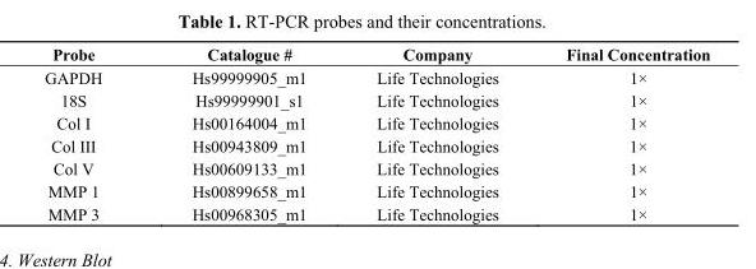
<table><thead><tr><td>Probe</td><td>Catalogue #</td><td>Company</td><td>Final Concentration</td></tr></thead><tbody><tr><td>GAPDH</td><td>Hs99999905_m1</td><td>Life Technologies</td><td>1×</td></tr><tr><td>18S</td><td>Hs99999901_s1</td><td>Life Technologies</td><td>1×</td></tr><tr><td>Col I</td><td>Hs00164004_m1</td><td>Life Technologies</td><td>1×</td></tr><tr><td>Col III</td><td>Hs00943809_m1</td><td>Life Technologies</td><td>1×</td></tr><tr><td>Col V</td><td>Hs00609133_m1</td><td>Life Technologies</td><td>1×</td></tr><tr><td>MMP 1</td><td>Hs00899658_m1</td><td>Life Technologies</td><td>1×</td></tr><tr><td>MMP 3</td><td>Hs00968305_m1</td><td>Life Technologies</td><td>1×</td></tr></tbody></table>